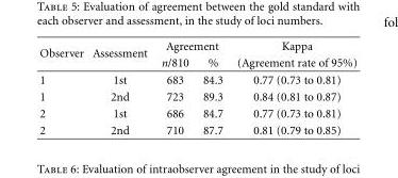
<table><thead><tr><td rowspan="2">Observer</td><td rowspan="2">Assessment</td><td colspan="2">Agreement</td><td rowspan="2">Kappa (Agreement rate of 95%)</td></tr><tr><td>n/810</td><td>%</td></tr></thead><tbody><tr><td>1</td><td>1st</td><td>683</td><td>84.3</td><td>0.77 (0.73 to 0.81)</td></tr><tr><td>1</td><td>2nd</td><td>723</td><td>89.3</td><td>0.84 (0.81 to 0.87)</td></tr><tr><td>2</td><td>1st</td><td>686</td><td>84.7</td><td>0.77 (0.73 to 0.81)</td></tr><tr><td>2</td><td>2nd</td><td>710</td><td>87.7</td><td>0.81 (0.79 to 0.85)</td></tr></tbody></table>